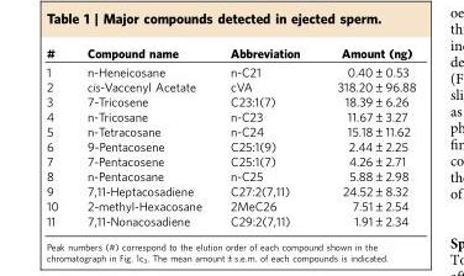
<table><thead><tr><td>#</td><td>Compound name</td><td>Abbreviation</td><td>Amount (ng)</td></tr></thead><tbody><tr><td>1</td><td>n-Heneicosane</td><td>n-C21</td><td>0.40±0.53</td></tr><tr><td>2</td><td>cis-Vaccenyl Acetate</td><td>cVA</td><td>318.20±96.88</td></tr><tr><td>3</td><td>7-Tricosene</td><td>C23:1(7)</td><td>18.39±6.26</td></tr><tr><td>4</td><td>n-Tricosane</td><td>n-C23</td><td>11.67±3.27</td></tr><tr><td>5</td><td>n-Tetracosane</td><td>n-C24</td><td>15.18±11.62</td></tr><tr><td>6</td><td>9-Pentacosene</td><td>C25:1(9)</td><td>2.44±2.25</td></tr><tr><td>7</td><td>7-Pentacosene</td><td>C25:1(7)</td><td>4.26±2.71</td></tr><tr><td>8</td><td>n-Pentacosane</td><td>n-C25</td><td>5.88±2.98</td></tr><tr><td>9</td><td>7,11-Heptacosadiene</td><td>C27:2(7,11)</td><td>24.52±8.32</td></tr><tr><td>10</td><td>2-methyl-Hexacosane</td><td>2MeC26</td><td>7.51±2.54</td></tr><tr><td>11</td><td>7,11-Nonacosadiene</td><td>C29:2(7,11)</td><td>1.91±2.34</td></tr></tbody></table>